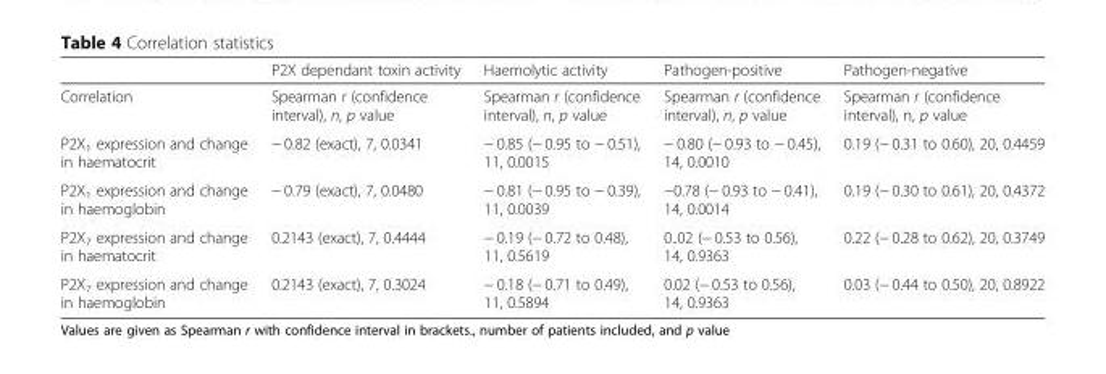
<table><thead><tr><td></td><td>P2X dependant toxin activity</td><td>Haemolytic activity</td><td>Pathogen-positive</td><td>Pathogen-negative</td></tr></thead><tbody><tr><td>Correlation</td><td>Spearman r (confidence interval), n, p value</td><td>Spearman r (confidence interval), n, p value</td><td>Spearman r (confidence interval), n, p value</td><td>Spearman r (confidence interval), n, p value</td></tr><tr><td>P2X<sub>1</sub> expression and change in haematocrit</td><td>− 0.82 (exact), 7, 0.0341</td><td>− 0.85 (− 0.95 to − 0.51), 11, 0.0015</td><td>− 0.80 (− 0.93 to − 0.45), 14, 0.0010</td><td>0.19 (− 0.31 to 0.60), 20, 0.4459</td></tr><tr><td>P2X<sub>1</sub> expression and change in haemoglobin</td><td>− 0.79 (exact), 7, 0.0480</td><td>− 0.81 (− 0.95 to − 0.39), 11, 0.0039</td><td>−0.78 (− 0.93 to − 0.41), 14, 0.0014</td><td>0.19 (− 0.30 to 0.61), 20, 0.4372</td></tr><tr><td>P2X<sub>7</sub> expression and change in haematocrit</td><td>0.2143 (exact), 7, 0.4444</td><td>− 0.19 (− 0.72 to 0.48), 11, 0.5619</td><td>0..02 (− 0.53 to 0.56), 14, 0.9363</td><td>0.22 (− 0.28 to 0.62), 20, 0.3749</td></tr><tr><td>P2X<sub>7</sub> expression and change in haemoglobin</td><td>0.2143 (exact), 7, 0.3024</td><td>− 0.18 (− 0.71 to 0.49), 11, 0.5894</td><td>0.02 (− 0.53 to 0.56), 14, 0.9363</td><td>0.03 (− 0.44 to 0.50), 20, 0.8922</td></tr></tbody></table>